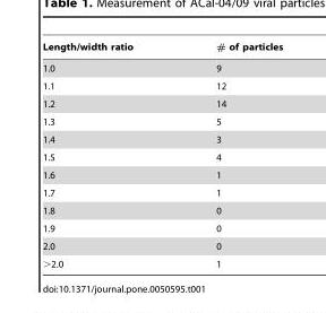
<table><thead><tr><td>Length/width ratio</td><td># of particles</td></tr></thead><tbody><tr><td>1.0</td><td>9</td></tr><tr><td>1.1</td><td>12</td></tr><tr><td>1.2</td><td>14</td></tr><tr><td>1.3</td><td>5</td></tr><tr><td>1.4</td><td>3</td></tr><tr><td>1.5</td><td>4</td></tr><tr><td>1.6</td><td>1</td></tr><tr><td>1.7</td><td>1</td></tr><tr><td>1.8</td><td>0</td></tr><tr><td>1.9</td><td>0</td></tr><tr><td>2.0</td><td>0</td></tr><tr><td>&gt;2.0</td><td>1</td></tr></tbody></table>